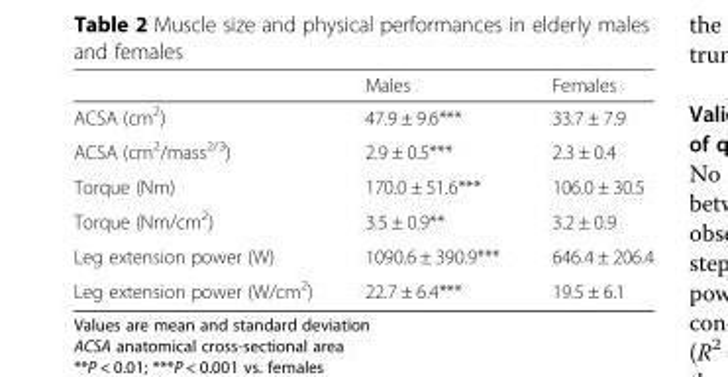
<table><thead><tr><td></td><td>Males</td><td>Females</td></tr></thead><tbody><tr><td>ACSA (cm<sup>2</sup>)</td><td>47.9 ± 9.6***</td><td>33.7 ± 7.9</td></tr><tr><td>ACSA (cm<sup>2</sup>/mass<sup>2/3</sup>)</td><td>2.9 ± 0.5***</td><td>2.3 ± 0.4</td></tr><tr><td>Torque (Nm)</td><td>170.0 ± 51.6***</td><td>106.0 ± 30.5</td></tr><tr><td>Torque (Nm/cm<sup>2</sup>)</td><td>3.5 ± 0.9**</td><td>3.2 ± 0.9</td></tr><tr><td>Leg extension power (W)</td><td>1090.6 ± 390.9***</td><td>646.4 ± 206.4</td></tr><tr><td>Leg extension power (W/cm<sup>2</sup>)</td><td>22.7 ± 6.4***</td><td>19.5 ± 6.1</td></tr></tbody></table>